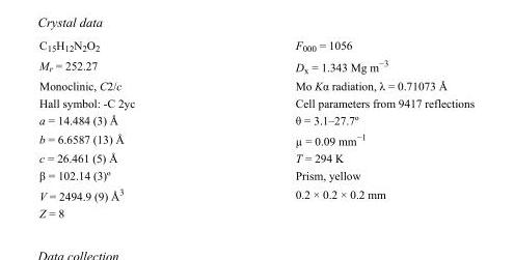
<table><tbody><tr><td>C<sub>15</sub>H<sub>12</sub>N<sub>2</sub>O<sub>2</sub></td><td>F000 = 1056</td></tr><tr><td>M<sub>r</sub> = 252.27</td><td>D<sub>x</sub> = 1.343 Mg m<sup>−3</sup></td></tr><tr><td>Monoclinic, C2/c</td><td>Mo Kα radiation, λ = 0.71073 Å</td></tr><tr><td>Hall symbol: -C 2yc</td><td>Cell parameters from 9417 reflections</td></tr><tr><td>a = 14.484 (3) Å</td><td>θ = 3.1–27.7º</td></tr><tr><td>b = 6.6587 (13) Å</td><td>µ = 0.09 mm<sup>−1</sup></td></tr><tr><td>c = 26.461 (5) Å</td><td>T = 294 K</td></tr><tr><td>β = 102.14 (3)º</td><td>Prism, yellow</td></tr><tr><td>V = 2494.9 (9) Å<sup>3</sup></td><td>0.2 × 0.2 × 0.2 mm</td></tr><tr><td>Z = 8</td><td></td></tr></tbody></table>